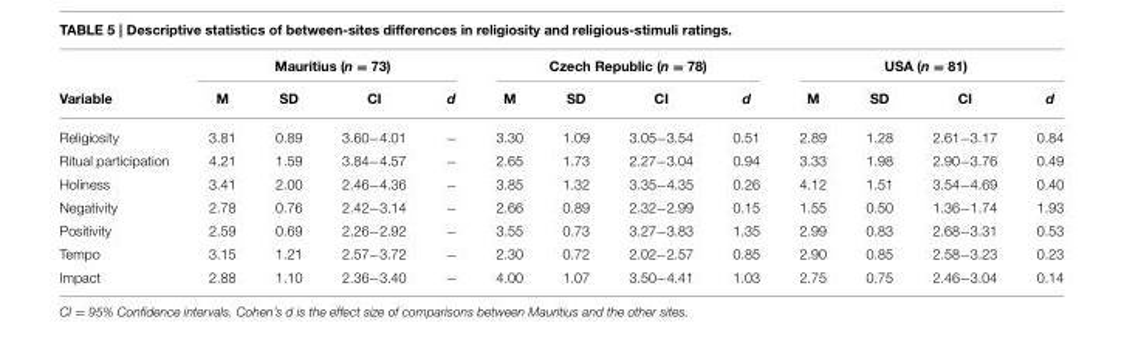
<table><thead><tr><td rowspan="2">Variable</td><td colspan="4">Mauritius (n = 73)</td><td colspan="4">Czech Republic (n = 78)</td><td colspan="4">USA (n = 81)</td></tr><tr><td>M</td><td>SD</td><td>CI</td><td>d</td><td>M</td><td>SD</td><td>CI</td><td>d</td><td>M</td><td>SD</td><td>CI</td><td>d</td></tr></thead><tbody><tr><td>Religiosity</td><td>3.81</td><td>0.89</td><td>3.60−4.01</td><td>−</td><td>3.30</td><td>1.09</td><td>3.05−3.54</td><td>0.51</td><td>2.89</td><td>1.28</td><td>2.61−3.17</td><td>0.84</td></tr><tr><td>Ritual participation</td><td>4.21</td><td>1.59</td><td>3.84−4.57</td><td>−</td><td>2.65</td><td>1.73</td><td>2.27−3.04</td><td>0.94</td><td>3.33</td><td>1.98</td><td>2.90−3.76</td><td>0.49</td></tr><tr><td>Holiness</td><td>3.41</td><td>2.00</td><td>2.46−4.36</td><td>−</td><td>3.85</td><td>1.32</td><td>3.35−4.35</td><td>0.26</td><td>4.12</td><td>1.51</td><td>3.54−4.69</td><td>0.40</td></tr><tr><td>Negativity</td><td>2.78</td><td>0.76</td><td>2.42−3.14</td><td>−</td><td>2.66</td><td>0.89</td><td>2.32−2.99</td><td>0.15</td><td>1.55</td><td>0.50</td><td>1.36−1.74</td><td>1.93</td></tr><tr><td>Positivity</td><td>2.59</td><td>0.69</td><td>2.26−2.92</td><td>−</td><td>3.55</td><td>0.73</td><td>3.27−3.83</td><td>1.35</td><td>2.99</td><td>0.83</td><td>2.68−3.31</td><td>0.53</td></tr><tr><td>Tempo</td><td>3.15</td><td>1.21</td><td>2.57−3.72</td><td>−</td><td>2.30</td><td>0.72</td><td>2.02−2.57</td><td>0.85</td><td>2.90</td><td>0.85</td><td>2.58−3.23</td><td>0.23</td></tr><tr><td>Impact</td><td>2.88</td><td>1.10</td><td>2.36−3.40</td><td>−</td><td>4.00</td><td>1.07</td><td>3.50−4.41</td><td>1.03</td><td>2.75</td><td>0.75</td><td>2.46−3.04</td><td>0.14</td></tr></tbody></table>